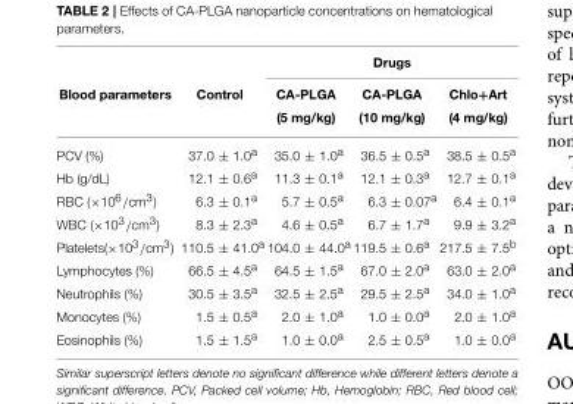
<table><thead><tr><td rowspan="3">Blood parameters</td><td rowspan="3">Control</td><td colspan="3">Drugs</td></tr><tr><td rowspan="2">CA-PLGA (5 mg/kg)</td><td rowspan="2">CA-PLGA (10 mg/kg)</td><td rowspan="2">Chlo+Art (4 mg/kg)</td></tr><tr></tr></thead><tbody><tr><td>PCV (%)</td><td>37.0 ± 1.0<sup>a</sup></td><td>35.0 ± 1.0<sup>a</sup></td><td>36.5 ± 0.5<sup>a</sup></td><td>38.5 ± 0.5<sup>a</sup></td></tr><tr><td>Hb (g/dL)</td><td>12.1 ± 0.6<sup>a</sup></td><td>11.3 ± 0.1<sup>a</sup></td><td>12.1 ± 0.3<sup>a</sup></td><td>12.7 ± 0.1<sup>a</sup></td></tr><tr><td>RBC (×10<sup>6</sup>/cm<sup>3</sup>)</td><td>6.3 ± 0.1<sup>a</sup></td><td>5.7 ± 0.5<sup>a</sup></td><td>6.3 ± 0.07<sup>a</sup></td><td>6.4 ± 0.1<sup>a</sup></td></tr><tr><td>WBC (×10<sup>3</sup>/cm<sup>3</sup>)</td><td>8.3 ± 2.3<sup>a</sup></td><td>4.6 ± 0.5<sup>a</sup></td><td>6.7 ± 1.7<sup>a</sup></td><td>9.9 ± 3.2<sup>a</sup></td></tr><tr><td>Platelets(×10<sup>3</sup>/cm<sup>3</sup>)</td><td>110.5 ± 41.0<sup>a</sup></td><td>104.0 ± 44.0<sup>a</sup></td><td>119.5 ± 0.6<sup>a</sup></td><td>217.5 ± 7.5<sup>b</sup></td></tr><tr><td>Lymphocytes (%)</td><td>66.5 ± 4.5<sup>a</sup></td><td>64.5 ± 1.5<sup>a</sup></td><td>67.0 ± 2.0<sup>a</sup></td><td>63.0 ± 2.0<sup>a</sup></td></tr><tr><td>Neutrophils (%)</td><td>30.5 ± 3.5<sup>a</sup></td><td>32.5 ± 2.5<sup>a</sup></td><td>29.5 ± 2.5<sup>a</sup></td><td>34.0 ± 1.0<sup>a</sup></td></tr><tr><td>Monocytes (%)</td><td>1.5 ± 0.5<sup>a</sup></td><td>2.0 ± 1.0<sup>a</sup></td><td>1.0 ± 0.0<sup>a</sup></td><td>2.0 ± 1.0<sup>a</sup></td></tr><tr><td>Eosinophils (%)</td><td>1.5 ± 1.5<sup>a</sup></td><td>1.0 ± 0.0<sup>a</sup></td><td>2.5 ± 0.5<sup>a</sup></td><td>1.0 ± 0.0<sup>a</sup></td></tr></tbody></table>